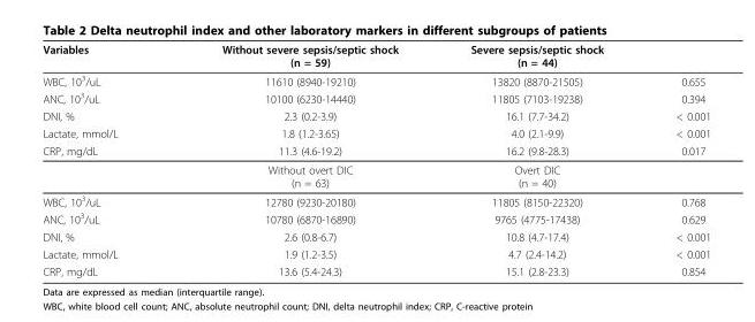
<table><thead><tr><td>Variables</td><td>Without severe sepsis/septic shock (n = 59)</td><td>Severe sepsis/septic shock (n = 44)</td><td></td></tr></thead><tbody><tr><td>WBC, 10<sup>3</sup>/uL</td><td>11610 (8940-19210)</td><td>13820 (8870-21505)</td><td>0.655</td></tr><tr><td>ANC, 10<sup>3</sup>/uL</td><td>10100 (6230-14440)</td><td>11805 (7103-19238)</td><td>0.394</td></tr><tr><td>DNI, %</td><td>2.3 (0.2-3.9)</td><td>16.1 (7.7-34.2)</td><td>&lt; 0.001</td></tr><tr><td>Lactate, mmol/L</td><td>1.8 (1.2-3.65)</td><td>4.0 (2.1-9.9)</td><td>&lt; 0.001</td></tr><tr><td rowspan="2">CRP, mg/dL</td><td>11.3 (4.6-19.2)</td><td>16.2 (9.8-28.3)</td><td>0.017</td></tr><tr><td>Without overt DIC (n = 63)</td><td>Overt DIC (n = 40)</td><td></td></tr><tr><td>WBC, 10<sup>3</sup>/uL</td><td>12780 (9230-20180)</td><td>11805 (8150-22320)</td><td>0.768</td></tr><tr><td>ANC, 10<sup>3</sup>/uL</td><td>10780 (6870-16890)</td><td>9765 (4775-17438)</td><td>0.629</td></tr><tr><td>DNI, %</td><td>2.6 (0.8-6.7)</td><td>10.8 (4.7-17.4)</td><td>&lt; 0.001</td></tr><tr><td>Lactate, mmol/L</td><td>1.9 (1.2-3.5)</td><td>4.7 (2.4-14.2)</td><td>&lt; 0.001</td></tr><tr><td>CRP, mg/dL</td><td>13.6 (5.4-24.3)</td><td>15.1 (2.8-23.3)</td><td>0.854</td></tr></tbody></table>